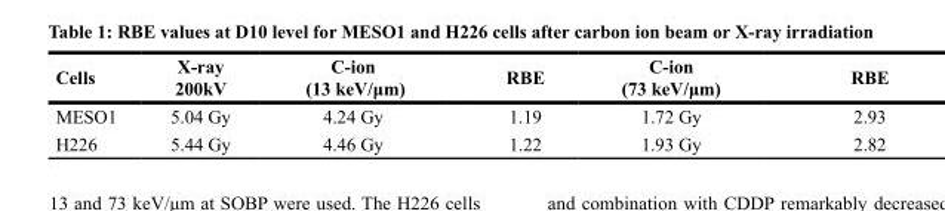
<table><thead><tr><td>Cells</td><td>X-ray 200kV</td><td>C-ion (13 keV/μm)</td><td>RBE</td><td>C-ion (73 keV/μm)</td><td>RBE</td></tr></thead><tbody><tr><td>MESO1</td><td>5.04 Gy</td><td>4.24 Gy</td><td>1.19</td><td>1.72 Gy</td><td>2.93</td></tr><tr><td>H226</td><td>5.44 Gy</td><td>4.46 Gy</td><td>1.22</td><td>1.93 Gy</td><td>2.82</td></tr></tbody></table>